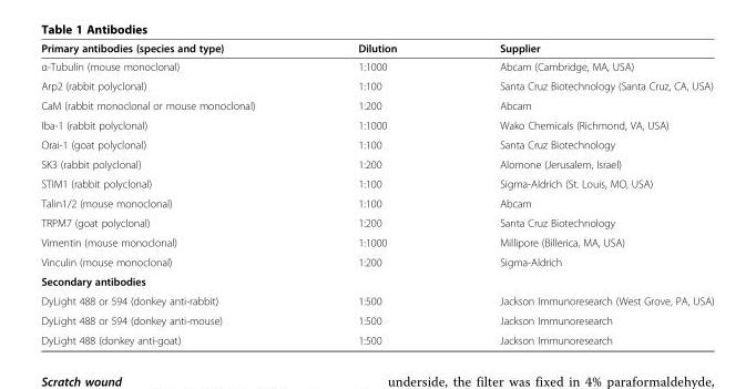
<table><thead><tr><td>Primary antibodies (species and type)</td><td>Dilution</td><td>Supplier</td></tr></thead><tbody><tr><td>α-Tubulin (mouse monoclonal)</td><td>1:1000</td><td>Abcam (Cambridge, MA, USA)</td></tr><tr><td>Arp2 (rabbit polyclonal)</td><td>1:100</td><td>Santa Cruz Biotechnology (Santa Cruz, CA, USA)</td></tr><tr><td>CaM (rabbit monoclonal or mouse monoclonal)</td><td>1:200</td><td>Abcam</td></tr><tr><td>Iba-1 (rabbit polyclonal)</td><td>1:1000</td><td>Wako Chemicals (Richmond, VA, USA)</td></tr><tr><td>Orai-1 (goat polyclonal)</td><td>1:100</td><td>Santa Cruz Biotechnology</td></tr><tr><td>SK3 (rabbit polyclonal)</td><td>1:200</td><td>Alomone (Jerusalem, Israel)</td></tr><tr><td>STIM1 (rabbit polyclonal)</td><td>1:100</td><td>Sigma-Aldrich (St. Louis, MO, USA)</td></tr><tr><td>Talin1/2 (mouse monoclonal)</td><td>1:100</td><td>Abcam</td></tr><tr><td>TRPM7 (goat polyclonal)</td><td>1:200</td><td>Santa Cruz Biotechnology</td></tr><tr><td>Vimentin (mouse monoclonal)</td><td>1:1000</td><td>Millipore (Billerica, MA, USA)</td></tr><tr><td>Vinculin (mouse monoclonal)</td><td>1:200</td><td>Sigma-Aldrich</td></tr><tr><td colspan="3">Secondary antibodies</td></tr><tr><td>DyLight 488 or 594 (donkey anti-rabbit)</td><td>1:500</td><td>Jackson Immunoresearch (West Grove, PA, USA)</td></tr><tr><td>DyLight 488 or 594 (donkey anti-mouse)</td><td>1:500</td><td>Jackson Immunoresearch</td></tr><tr><td>DyLight 488 (donkey anti-goat)</td><td>1:500</td><td>Jackson Immunoresearch</td></tr></tbody></table>